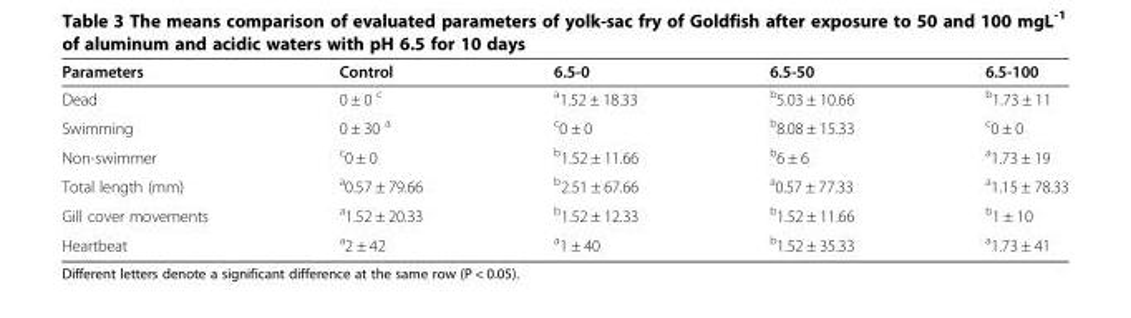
<table><thead><tr><td>Parameters</td><td>Control</td><td>6.5-0</td><td>6.5-50</td><td>6.5-100</td></tr></thead><tbody><tr><td>Dead</td><td>0 ± 0 <sup>c</sup></td><td><sup>a</sup>1.52 ± 18.33</td><td><sup>b</sup>5.03 ± 10.66</td><td><sup>b</sup>1.73 ± 11</td></tr><tr><td>Swimming</td><td>0 ± 30 <sup>a</sup></td><td><sup>c</sup>0 ± 0</td><td><sup>b</sup>8.08 ± 15.33</td><td><sup>c</sup>0 ± 0</td></tr><tr><td>Non-swimmer</td><td><sup>c</sup>0 ± 0</td><td><sup>b</sup>1.52 ± 11.66</td><td><sup>b</sup>6 ± 6</td><td><sup>a</sup>1.73 ± 19</td></tr><tr><td>Total length (mm)</td><td><sup>a</sup>0.57 ± 79.66</td><td><sup>b</sup>2.51 ± 67.66</td><td><sup>a</sup>0.57 ± 77.33</td><td><sup>a</sup>1.15 ± 78.33</td></tr><tr><td>Gill cover movements</td><td><sup>a</sup>1.52 ± 20.33</td><td><sup>b</sup>1.52 ± 12.33</td><td><sup>b</sup>1.52 ± 11.66</td><td><sup>b</sup>1 ± 10</td></tr><tr><td>Heartbeat</td><td><sup>a</sup>2 ± 42</td><td><sup>a</sup>1 ± 40</td><td><sup>b</sup>1.52 ± 35.33</td><td><sup>a</sup>1.73 ± 41</td></tr></tbody></table>